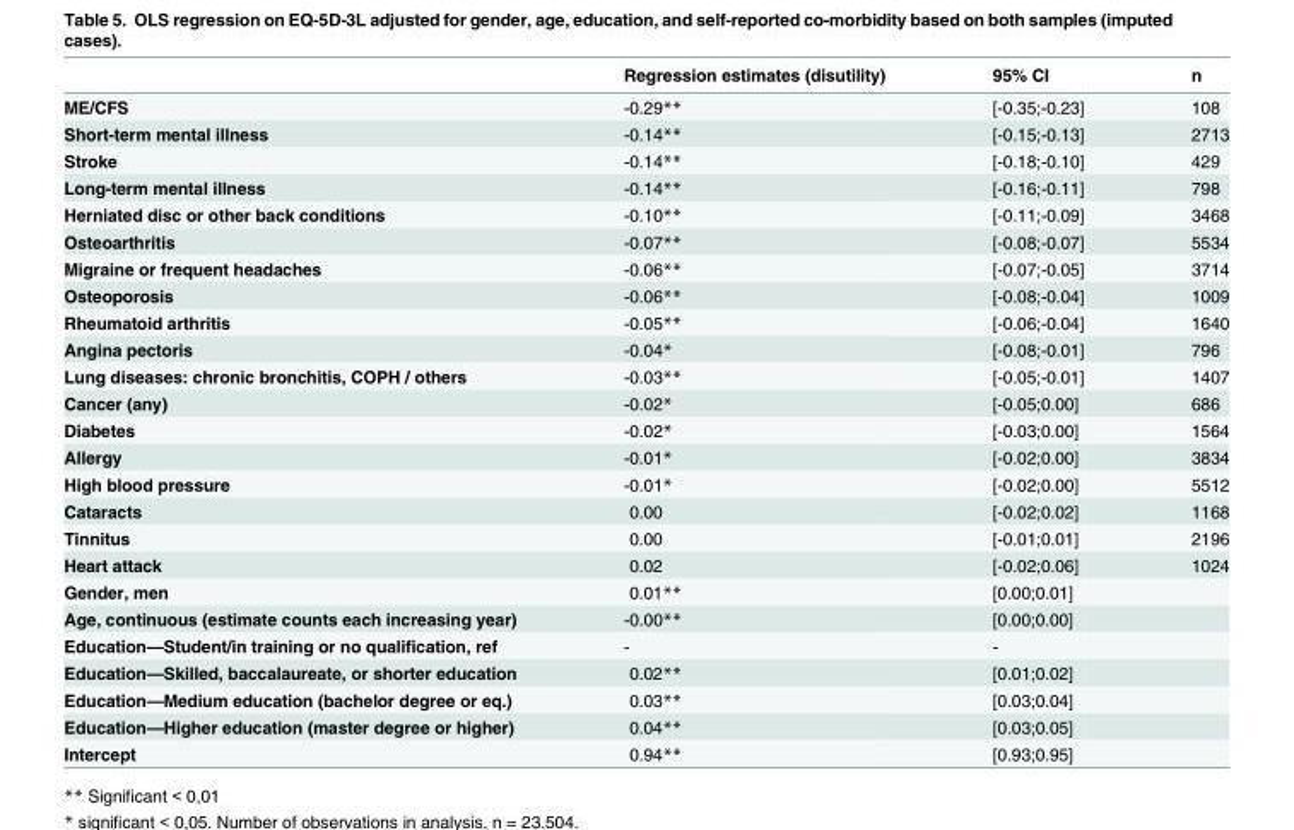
<table><thead><tr><td></td><td>Regression estimates (disutility)</td><td>95% CI</td><td>n</td></tr></thead><tbody><tr><td>ME/CFS</td><td>-0.29**</td><td>[-0.35;-0.23]</td><td>108</td></tr><tr><td>Short-term mental illness</td><td>-0.14**</td><td>[-0.15;-0.13]</td><td>2713</td></tr><tr><td>Stroke</td><td>-0.14**</td><td>[-0.18;-0.10]</td><td>429</td></tr><tr><td>Long-term mental illness</td><td>-0.14**</td><td>[-0.16;-0.11]</td><td>798</td></tr><tr><td>Herniated disc or other back conditions</td><td>-0.10**</td><td>[-0.11;-0.09]</td><td>3468</td></tr><tr><td>Osteoarthritis</td><td>-0.07**</td><td>[-0.08;-0.07]</td><td>5534</td></tr><tr><td>Migraine or frequent headaches</td><td>-0.06**</td><td>[-0.07;-0.05]</td><td>3714</td></tr><tr><td>Osteoporosis</td><td>-0.06**</td><td>[-0.08;-0.04]</td><td>1009</td></tr><tr><td>Rheumatoid arthritis</td><td>-0.05**</td><td>[-0.06;-0.04]</td><td>1640</td></tr><tr><td>Angina pectoris</td><td>-0.04*</td><td>[-0.08;-0.01]</td><td>796</td></tr><tr><td>Lung diseases: chronic bronchitis, COPH / others</td><td>-0.03**</td><td>[-0.05;-0.01]</td><td>1407</td></tr><tr><td>Cancer (any)</td><td>-0.02*</td><td>[-0.05;0.00]</td><td>686</td></tr><tr><td>Diabetes</td><td>-0.02*</td><td>[-0.03;0.00]</td><td>1564</td></tr><tr><td>Allergy</td><td>-0.01*</td><td>[-0.02;0.00]</td><td>3834</td></tr><tr><td>High blood pressure</td><td>-0.01*</td><td>[-0.02;0.00]</td><td>5512</td></tr><tr><td>Cataracts</td><td>0.00</td><td>[-0.02;0.02]</td><td>1168</td></tr><tr><td>Tinnitus</td><td>0.00</td><td>[-0.01;0.01]</td><td>2196</td></tr><tr><td>Heart attack</td><td>0.02</td><td>[-0.02;0.06]</td><td>1024</td></tr><tr><td>Gender, men</td><td>0.01**</td><td>[0.00;0.01]</td><td></td></tr><tr><td>Age, continuous (estimate counts each increasing year)</td><td>-0.00**</td><td>[0.00;0.00]</td><td></td></tr><tr><td>Education—Student/in training or no qualification, ref</td><td>-</td><td>-</td><td></td></tr><tr><td>Education—Skilled, baccalaureate, or shorter education</td><td>0.02**</td><td>[0.01;0.02]</td><td></td></tr><tr><td>Education—Medium education (bachelor degree or eq.)</td><td>0.03**</td><td>[0.03;0.04]</td><td></td></tr><tr><td>Education—Higher education (master degree or higher)</td><td>0.04**</td><td>[0.03;0.05]</td><td></td></tr><tr><td>Intercept</td><td>0.94**</td><td>[0.93;0.95]</td><td></td></tr></tbody></table>